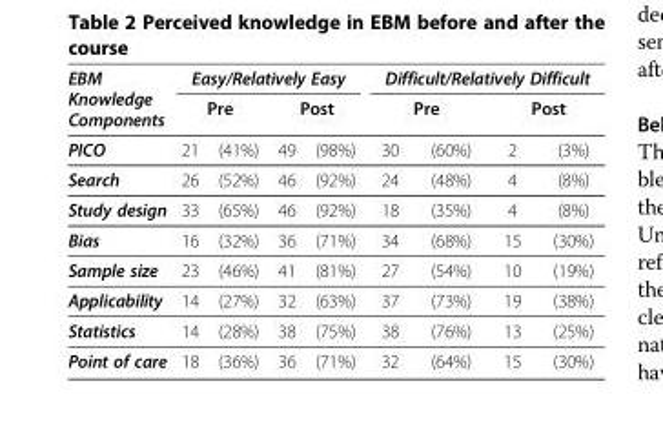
<table><thead><tr><td rowspan="3">EBM Knowledge Components PICO</td><td colspan="4">Easy/Relatively Easy</td><td colspan="4">Difficult/Relatively Difficult</td></tr><tr><td colspan="2">Pre</td><td colspan="2">Post</td><td colspan="2">Pre</td><td colspan="2">Post</td></tr><tr><td>21</td><td>(41%)</td><td>49</td><td>(98%)</td><td>30</td><td>(60%)</td><td>2</td><td>(3%)</td></tr></thead><tbody><tr><td>Search</td><td>26</td><td>(52%)</td><td>46</td><td>(92%)</td><td>24</td><td>(48%)</td><td>4</td><td>(8%)</td></tr><tr><td>Study design</td><td>33</td><td>(65%)</td><td>46</td><td>(92%)</td><td>18</td><td>(35%)</td><td>4</td><td>(8%)</td></tr><tr><td>Bias</td><td>16</td><td>(32%)</td><td>36</td><td>(71%)</td><td>34</td><td>(68%)</td><td>15</td><td>(30%)</td></tr><tr><td>Sample size</td><td>23</td><td>(46%)</td><td>41</td><td>(81%)</td><td>27</td><td>(54%)</td><td>10</td><td>(19%)</td></tr><tr><td>Applicability</td><td>14</td><td>(27%)</td><td>32</td><td>(63%)</td><td>37</td><td>(73%)</td><td>19</td><td>(38%)</td></tr><tr><td>Statistics</td><td>14</td><td>(28%)</td><td>38</td><td>(75%)</td><td>38</td><td>(76%)</td><td>13</td><td>(25%)</td></tr><tr><td>Point of care</td><td>18</td><td>(36%)</td><td>36</td><td>(71%)</td><td>32</td><td>(64%)</td><td>15</td><td>(30%)</td></tr></tbody></table>